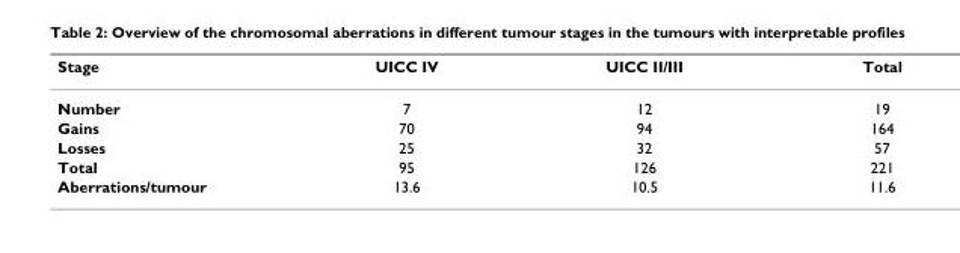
<table><thead><tr><td>Stage</td><td>UICC IV</td><td>UICC II/III</td><td>Total</td></tr></thead><tbody><tr><td>Number</td><td>7</td><td>12</td><td>19</td></tr><tr><td>Gains</td><td>70</td><td>94</td><td>164</td></tr><tr><td>Losses</td><td>25</td><td>32</td><td>57</td></tr><tr><td>Total</td><td>95</td><td>126</td><td>221</td></tr><tr><td>Aberrations/tumour</td><td>13.6</td><td>10.5</td><td>11.6</td></tr></tbody></table>